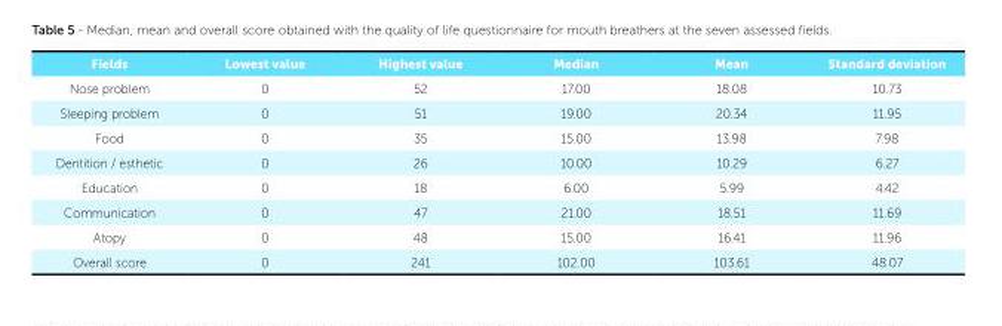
<table><thead><tr><td>Fields</td><td>Lowest value</td><td>Highest value</td><td>Median</td><td>Mean</td><td>Standard deviation</td></tr></thead><tbody><tr><td>Nose problem</td><td>0</td><td>52</td><td>17.00</td><td>18.08</td><td>10.73</td></tr><tr><td>Sleeping problem</td><td>0</td><td>51</td><td>19.00</td><td>20.34</td><td>11.95</td></tr><tr><td>Food</td><td>0</td><td>35</td><td>15.00</td><td>13.98</td><td>7.98</td></tr><tr><td>Dentition / esthetic</td><td>0</td><td>26</td><td>10.00</td><td>10.29</td><td>6.27</td></tr><tr><td>Education</td><td>0</td><td>18</td><td>6.00</td><td>5.99</td><td>4.42</td></tr><tr><td>Communication</td><td>0</td><td>47</td><td>21.00</td><td>18.51</td><td>11.69</td></tr><tr><td>Atopy</td><td>0</td><td>48</td><td>15.00</td><td>16.41</td><td>11.96</td></tr><tr><td>Overall score</td><td>0</td><td>241</td><td>102.00</td><td>103.61</td><td>48.07</td></tr></tbody></table>